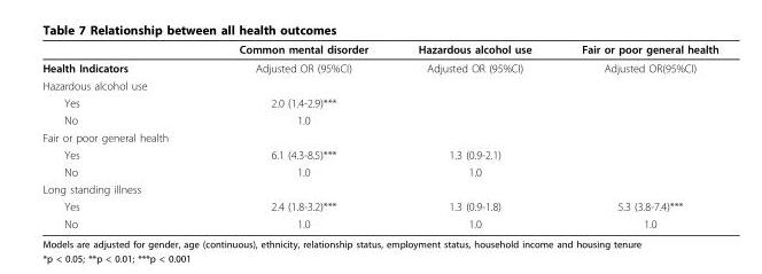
<table><thead><tr><td></td><td>Common mental disorder</td><td>Hazardous alcohol use</td><td>Fair or poor general health</td></tr></thead><tbody><tr><td>Health Indicators</td><td>Adjusted OR (95%CI)</td><td>Adjusted OR (95%CI)</td><td>Adjusted OR(95%CI)</td></tr><tr><td colspan="4">Hazardous alcohol use</td></tr><tr><td>Yes</td><td>2.0 (1.4-2.9)***</td><td></td><td></td></tr><tr><td>No</td><td>1.0</td><td></td><td></td></tr><tr><td colspan="4">Fair or poor general health</td></tr><tr><td>Yes</td><td>6.1 (4.3-8.5)***</td><td>1.3 (0.9-2.1)</td><td></td></tr><tr><td>No</td><td>1.0</td><td>1.0</td><td></td></tr><tr><td colspan="4">Long standing illness</td></tr><tr><td>Yes</td><td>2.4 (1.8-3.2)***</td><td>1.3 (0.9-1.8)</td><td>5.3 (3.8-7.4)***</td></tr><tr><td>No</td><td>1.0</td><td>1.0</td><td>1.0</td></tr></tbody></table>